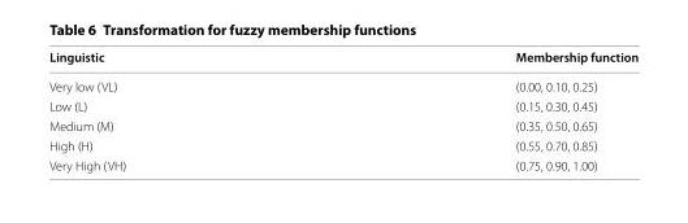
<table><thead><tr><td>Linguistic</td><td>Membership function</td></tr></thead><tbody><tr><td>Very low (VL)</td><td>(0.00, 0.10, 0.25)</td></tr><tr><td>Low (L)</td><td>(0.15, 0.30, 0.45)</td></tr><tr><td>Medium (M)</td><td>(0.35, 0.50, 0.65)</td></tr><tr><td>High (H)</td><td>(0.55, 0.70, 0.85)</td></tr><tr><td>Very High (VH)</td><td>(0.75, 0.90, 1.00)</td></tr></tbody></table>